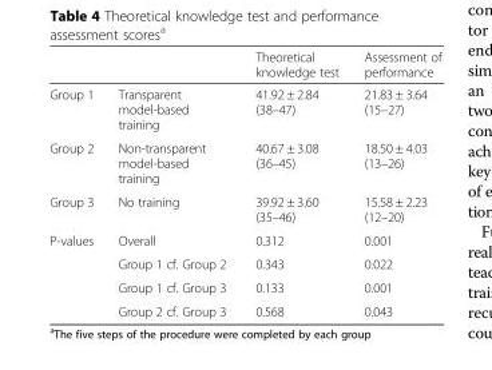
<table><thead><tr><td></td><td></td><td>Theoretical knowledge test</td><td>Assessment of performance</td></tr></thead><tbody><tr><td>Group 1</td><td>Transparent model-based training</td><td>41.92 ± 2.84 (38–47)</td><td>21.83 ± 3.64 (15–27)</td></tr><tr><td>Group 2</td><td>Non-transparent model-based training</td><td>40.67 ± 3.08 (36–45)</td><td>18.50 ± 4.03 (13–26)</td></tr><tr><td>Group 3</td><td>No training</td><td>39.92 ± 3.60 (35–46)</td><td>15.58 ± 2.23 (12–20)</td></tr><tr><td rowspan="4">P-values</td><td>Overall</td><td>0.312</td><td>0.001</td></tr><tr><td>Group 1 cf. Group 2</td><td>0.343</td><td>0.022</td></tr><tr><td>Group 1 cf. Group 3</td><td>0.133</td><td>0.001</td></tr><tr><td>Group 2 cf. Group 3</td><td>0.568</td><td>0.043</td></tr></tbody></table>